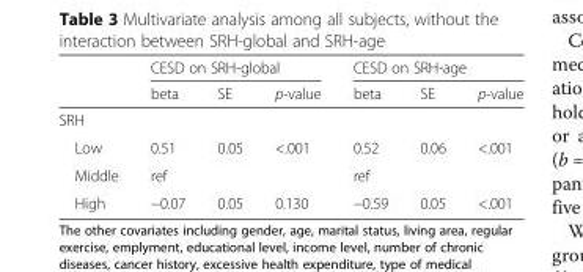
<table><thead><tr><td rowspan="2"></td><td colspan="3">CESD on SRH-global</td><td colspan="3">CESD on SRH-age</td></tr><tr><td>beta</td><td>SE</td><td>p-value</td><td>beta</td><td>SE</td><td>p-value</td></tr></thead><tbody><tr><td colspan="7">SRH</td></tr><tr><td>Low</td><td>0.51</td><td>0.05</td><td>&lt;.001</td><td>0.52</td><td>0.06</td><td>&lt;.001</td></tr><tr><td>Middle</td><td>ref</td><td></td><td></td><td>ref</td><td></td><td></td></tr><tr><td>High</td><td>−0.07</td><td>0.05</td><td>0.130</td><td>−0.59</td><td>0.05</td><td>&lt;.001</td></tr></tbody></table>